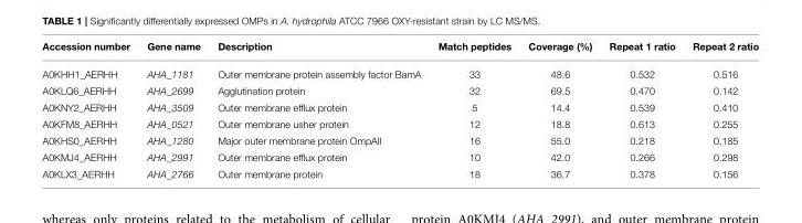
<table><thead><tr><td>Accession number</td><td>Gene name</td><td>Description</td><td>Match peptides</td><td>Coverage (%)</td><td>Repeat 1 ratio</td><td>Repeat 2 ratio</td></tr></thead><tbody><tr><td>A0KHH1_AERHH</td><td>AHA_1181</td><td>Outer membrane protein assembly factor BamA</td><td>33</td><td>48.6</td><td>0.532</td><td>0.516</td></tr><tr><td>A0KLQ6_AERHH</td><td>AHA_2699</td><td>Agglutination protein</td><td>32</td><td>69.5</td><td>0.470</td><td>0.142</td></tr><tr><td>A0KNY2_AERHH</td><td>AHA_3509</td><td>Outer membrane efflux protein</td><td>5</td><td>14.4</td><td>0.539</td><td>0.410</td></tr><tr><td>A0KFM8_AERHH</td><td>AHA_0521</td><td>Outer membrane usher protein</td><td>12</td><td>18.8</td><td>0.613</td><td>0.255</td></tr><tr><td>A0KHS0_AERHH</td><td>AHA_1280</td><td>Major outer membrane protein OmpAII</td><td>16</td><td>55.0</td><td>0.218</td><td>0.185</td></tr><tr><td>A0KMJ4_AERHH</td><td>AHA_2991</td><td>Outer membrane efflux protein</td><td>10</td><td>42.0</td><td>0.266</td><td>0.298</td></tr><tr><td>A0KLX3_AERHH</td><td>AHA_2766</td><td>Outer membrane protein</td><td>18</td><td>36.7</td><td>0.378</td><td>0.156</td></tr></tbody></table>